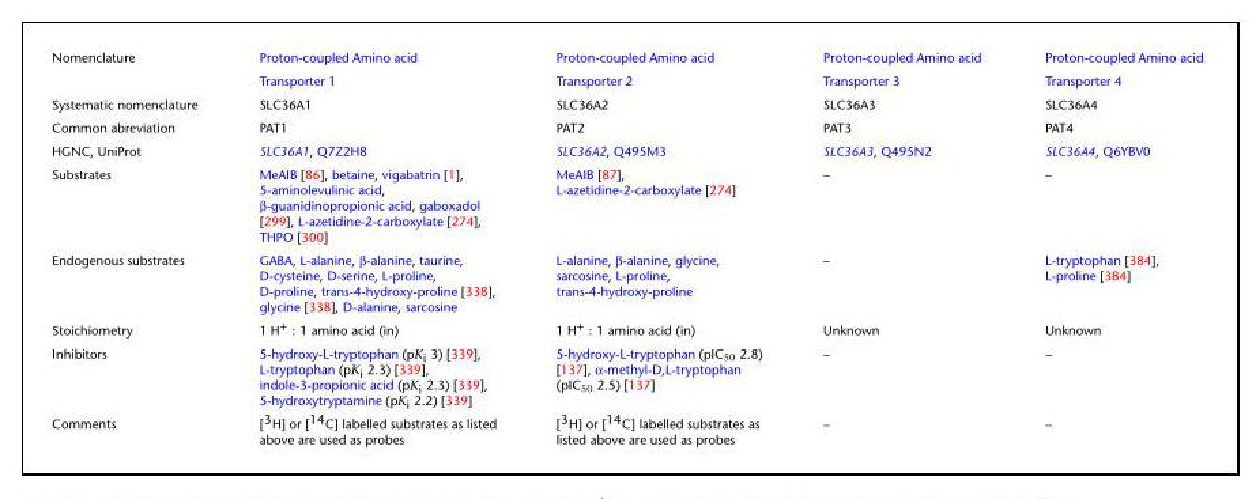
<table><tbody><tr><td rowspan="2">Nomenclature</td><td>Proton-coupled Amino acid</td><td>Proton-coupled Amino acid</td><td>Proton-coupled Amino acid</td><td>Proton-coupled Amino acid</td></tr><tr><td>Transporter 1</td><td>Transporter 2</td><td>Transporter 3</td><td>Transporter 4</td></tr><tr><td>Systematic nomenclature</td><td>SLC36A1</td><td>SLC36A2</td><td>SLC36A3</td><td>SLC36A4</td></tr><tr><td>Common abreviation</td><td>PAT1</td><td>PAT2</td><td>PAT3</td><td>PAT4</td></tr><tr><td>HGNC, UniProt</td><td>SLC36A1, Q7Z2H8</td><td>SLC36A2, Q495M3</td><td>SLC36A3, Q495N2</td><td>SLC36A4, Q6YBV0</td></tr><tr><td>Substrates</td><td>MeAIB [86], betaine, vigabatrin [1], 5-aminolevulinic acid, β-guanidinopropionic acid, gaboxadol [299], L-azetidine-2-carboxylate [274], THPO [300]</td><td>MeAIB [87], L-azetidine-2-carboxylate [274]</td><td>–</td><td>–</td></tr><tr><td>Endogenous substrates</td><td>GABA, L-alanine, β-alanine, taurine, D-cysteine, D-serine, L-proline, D-proline, trans-4-hydroxy-proline [338], glycine [338], D-alanine, sarcosine</td><td>L-alanine, β-alanine, glycine, sarcosine, L-proline, trans-4-hydroxy-proline</td><td>–</td><td>L-tryptophan [384], L-proline [384]</td></tr><tr><td>Stoichiometry</td><td>1 H<sup>+</sup> : 1 amino acid (in)</td><td>1 H<sup>+</sup> : 1 amino acid (in)</td><td>Unknown</td><td>Unknown</td></tr><tr><td>Inhibitors</td><td>5-hydroxy-L-tryptophan (pK<sub>i</sub> 3) [339], L-tryptophan (pK<sub>i</sub> 2.3) [339], indole-3-propionic acid (pK<sub>i</sub> 2.3) [339], 5-hydroxytryptamine (pK<sub>i</sub> 2.2) [339]</td><td>5-hydroxy-L-tryptophan (pIC<sub>50</sub> 2.8) [137], α-methyl-D,L-tryptophan (pIC<sub>50</sub> 2.5) [137]</td><td>–</td><td>–</td></tr><tr><td>Comments</td><td>[<sup>3</sup>H] or [<sup>14</sup>C] labelled substrates as listed above are used as probes</td><td>[<sup>3</sup>H] or [<sup>14</sup>C] labelled substrates as listed above are used as probes</td><td>–</td><td>–</td></tr></tbody></table>